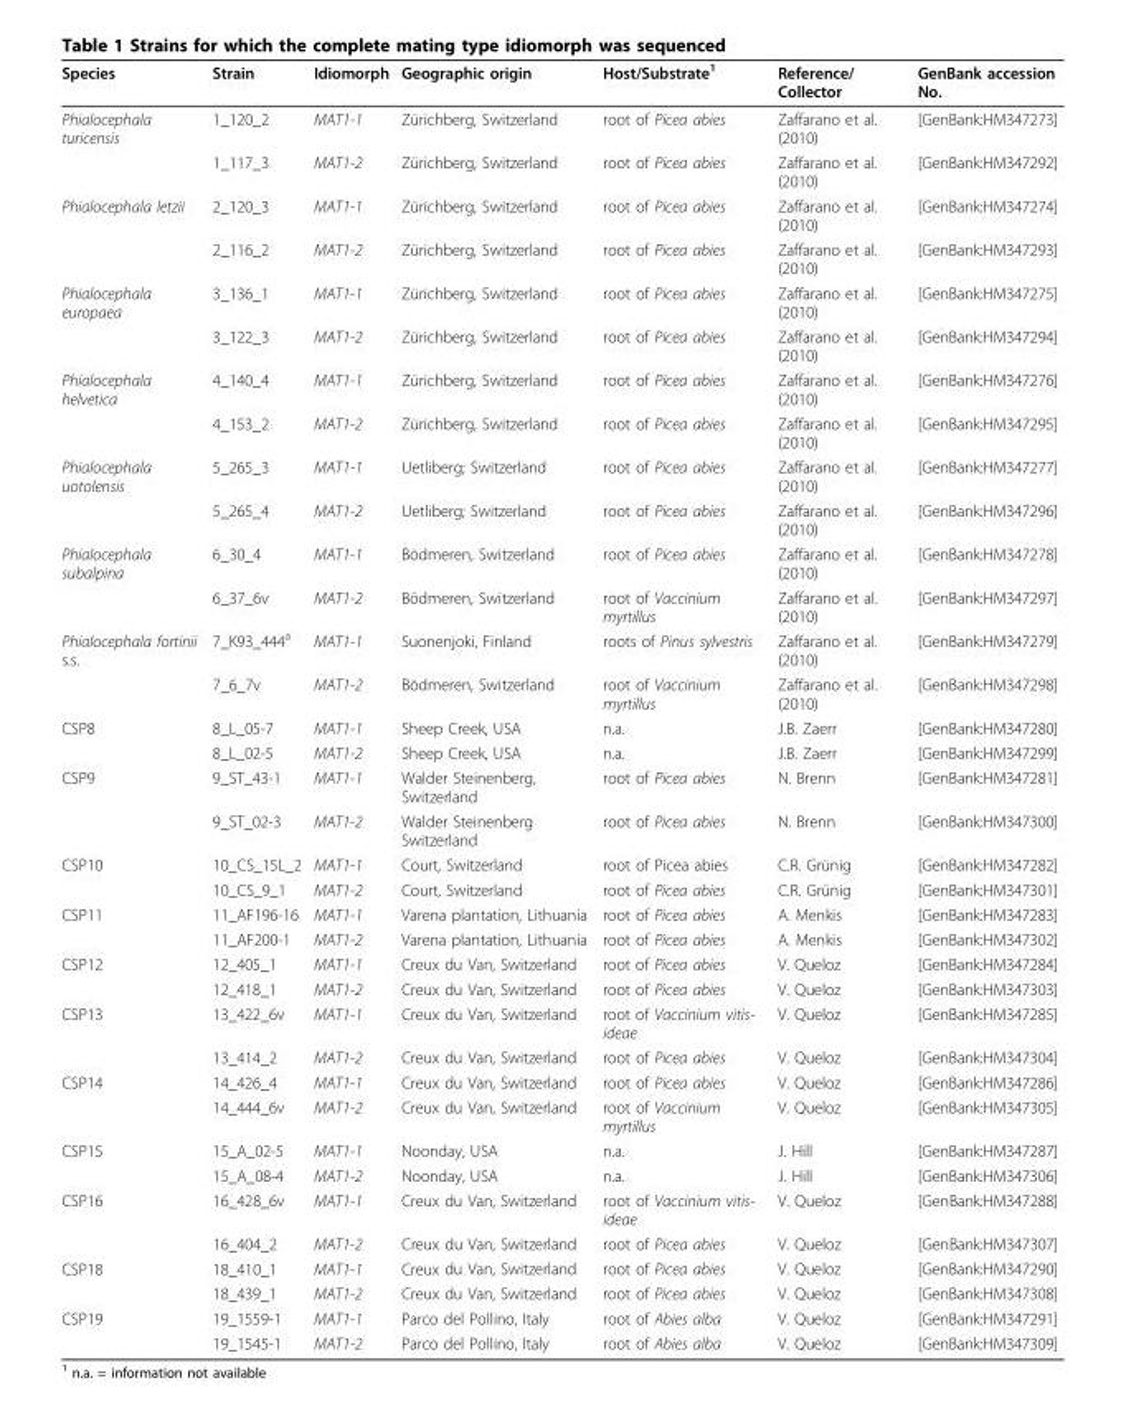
<table><thead><tr><td>Species</td><td>Strain</td><td>Idiomorph</td><td>Geographic origin</td><td>Host/Substrate<sup>1</sup></td><td>Reference/ Collector</td><td>GenBank accession No.</td></tr></thead><tbody><tr><td rowspan="2">Phialocephala turicensis</td><td>1_120_2</td><td>MAT1-1</td><td>Zürichberg, Switzerland</td><td>root of Picea abies</td><td>Zaffarano et al. (2010)</td><td>[GenBank:HM347273]</td></tr><tr><td>1_117_3</td><td>MAT1-2</td><td>Zürichberg, Switzerland</td><td>root of Picea abies</td><td>Zaffarano et al. (2010)</td><td>[GenBank:HM347292]</td></tr><tr><td rowspan="2">Phialocephala letzii</td><td>2_120_3</td><td>MAT1-1</td><td>Zürichberg, Switzerland</td><td>root of Picea abies</td><td>Zaffarano et al. (2010)</td><td>[GenBank:HM347274]</td></tr><tr><td>2_116_2</td><td>MAT1-2</td><td>Zürichberg, Switzerland</td><td>root of Picea abies</td><td>Zaffarano et al. (2010)</td><td>[GenBank:HM347293]</td></tr><tr><td rowspan="2">Phialocephala europaea</td><td>3_136_1</td><td>MAT1-1</td><td>Zürichberg, Switzerland</td><td>root of Picea abies</td><td>Zaffarano et al. (2010)</td><td>[GenBank:HM347275]</td></tr><tr><td>3_122_3</td><td>MAT1-2</td><td>Zürichberg, Switzerland</td><td>root of Picea abies</td><td>Zaffarano et al. (2010)</td><td>[GenBank:HM347294]</td></tr><tr><td rowspan="2">Phialocephala helvetica</td><td>4_140_4</td><td>MAT1-1</td><td>Zürichberg, Switzerland</td><td>root of Picea abies</td><td>Zaffarano et al. (2010)</td><td>[GenBank:HM347276]</td></tr><tr><td>4_153_2</td><td>MAT1-2</td><td>Zürichberg, Switzerland</td><td>root of Picea abies</td><td>Zaffarano et al. (2010)</td><td>[GenBank:HM347295]</td></tr><tr><td rowspan="2">Phialocephala uotolensis</td><td>5_265_3</td><td>MAT1-1</td><td>Uetliberg; Switzerland</td><td>root of Picea abies</td><td>Zaffarano et al. (2010)</td><td>[GenBank:HM347277]</td></tr><tr><td>5_265_4</td><td>MAT1-2</td><td>Uetliberg; Switzerland</td><td>root of Picea abies</td><td>Zaffarano et al. (2010)</td><td>[GenBank:HM347296]</td></tr><tr><td rowspan="2">Phialocephala subalpina</td><td>6_30_4</td><td>MAT1-1</td><td>Bödmeren, Switzerland</td><td>root of Picea abies</td><td>Zaffarano et al. (2010)</td><td>[GenBank:HM347278]</td></tr><tr><td>6_37_6v</td><td>MAT1-2</td><td>Bödmeren, Switzerland</td><td>root of Vaccinium myrtillus</td><td>Zaffarano et al. (2010)</td><td>[GenBank:HM347297]</td></tr><tr><td rowspan="2">Phialocephala fortinii s.s.</td><td>7_K93_444<sup>a</sup></td><td>MAT1-1</td><td>Suonenjoki, Finland</td><td>roots of Pinus sylvestris</td><td>Zaffarano et al. (2010)</td><td>[GenBank:HM347279]</td></tr><tr><td>7_6_7v</td><td>MAT1-2</td><td>Bödmeren, Switzerland</td><td>root of Vaccinium myrtillus</td><td>Zaffarano et al. (2010)</td><td>[GenBank:HM347298]</td></tr><tr><td rowspan="2">CSP8</td><td>8_L_05-7</td><td>MAT1-1</td><td>Sheep Creek, USA</td><td>n.a.</td><td>J.B. Zaerr</td><td>[GenBank:HM347280]</td></tr><tr><td>8_L_02-5</td><td>MAT1-2</td><td>Sheep Creek, USA</td><td>n.a.</td><td>J.B. Zaerr</td><td>[GenBank:HM347299]</td></tr><tr><td rowspan="2">CSP9</td><td>9_ST_43-1</td><td>MAT1-1</td><td>Walder Steinenberg, Switzerland</td><td>root of Picea abies</td><td>N. Brenn</td><td>[GenBank:HM347281]</td></tr><tr><td>9_ST_02-3</td><td>MAT1-2</td><td>Walder Steinenberg Switzerland</td><td>root of Picea abies</td><td>N. Brenn</td><td>[GenBank:HM347300]</td></tr><tr><td rowspan="2">CSP10</td><td>10_CS_15L_2</td><td>MAT1-1</td><td>Court, Switzerland</td><td>root of Picea abies</td><td>C.R. Grünig</td><td>[GenBank:HM347282]</td></tr><tr><td>10_CS_9_1</td><td>MAT1-2</td><td>Court, Switzerland</td><td>root of Picea abies</td><td>C.R. Grünig</td><td>[GenBank:HM347301]</td></tr><tr><td rowspan="2">CSP11</td><td>11_AF196-16</td><td>MAT1-1</td><td>Varena plantation, Lithuania</td><td>root of Picea abies</td><td>A. Menkis</td><td>[GenBank:HM347283]</td></tr><tr><td>11_AF200-1</td><td>MAT1-2</td><td>Varena plantation, Lithuania</td><td>root of Picea abies</td><td>A. Menkis</td><td>[GenBank:HM347302]</td></tr><tr><td rowspan="2">CSP12</td><td>12_405_1</td><td>MAT1-1</td><td>Creux du Van, Switzerland</td><td>root of Picea abies</td><td>V. Queloz</td><td>[GenBank:HM347284]</td></tr><tr><td>12_418_1</td><td>MAT1-2</td><td>Creux du Van, Switzerland</td><td>root of Picea abies</td><td>V. Queloz</td><td>[GenBank:HM347303]</td></tr><tr><td rowspan="2">CSP13</td><td>13_422_6v</td><td>MAT1-1</td><td>Creux du Van, Switzerland</td><td>root of Vaccinium vitis- ideae</td><td>V. Queloz</td><td>[GenBank:HM347285]</td></tr><tr><td>13_414_2</td><td>MAT1-2</td><td>Creux du Van, Switzerland</td><td>root of Picea abies</td><td>V. Queloz</td><td>[GenBank:HM347304]</td></tr><tr><td rowspan="2">CSP14</td><td>14_426_4</td><td>MAT1-1</td><td>Creux du Van, Switzerland</td><td>root of Picea abies</td><td>V. Queloz</td><td>[GenBank:HM347286]</td></tr><tr><td>14_444_6v</td><td>MAT1-2</td><td>Creux du Van, Switzerland</td><td>root of Vaccinium myrtillus</td><td>V. Queloz</td><td>[GenBank:HM347305]</td></tr><tr><td rowspan="2">CSP15</td><td>15_A_02-5</td><td>MAT1-1</td><td>Noonday, USA</td><td>n.a.</td><td>J. Hill</td><td>[GenBank:HM347287]</td></tr><tr><td>15_A_08-4</td><td>MAT1-2</td><td>Noonday, USA</td><td>n.a.</td><td>J. Hill</td><td>[GenBank:HM347306]</td></tr><tr><td rowspan="2">CSP16</td><td>16_428_6v</td><td>MAT1-1</td><td>Creux du Van, Switzerland</td><td>root of Vaccinium vitis- ideae</td><td>V. Queloz</td><td>[GenBank:HM347288]</td></tr><tr><td>16_404_2</td><td>MAT1-2</td><td>Creux du Van, Switzerland</td><td>root of Picea abies</td><td>V. Queloz</td><td>[GenBank:HM347307]</td></tr><tr><td rowspan="2">CSP18</td><td>18_410_1</td><td>MAT1-1</td><td>Creux du Van, Switzerland</td><td>root of Picea abies</td><td>V. Queloz</td><td>[GenBank:HM347290]</td></tr><tr><td>18_439_1</td><td>MAT1-2</td><td>Creux du Van, Switzerland</td><td>root of Picea abies</td><td>V. Queloz</td><td>[GenBank:HM347308]</td></tr><tr><td rowspan="2">CSP19</td><td>19_1559-1</td><td>MAT1-1</td><td>Parco del Pollino, Italy</td><td>root of Abies alba</td><td>V. Queloz</td><td>[GenBank:HM347291]</td></tr><tr><td>19_1545-1</td><td>MAT1-2</td><td>Parco del Pollino, Italy</td><td>root of Abies alba</td><td>V. Queloz</td><td>[GenBank:HM347309]</td></tr></tbody></table>